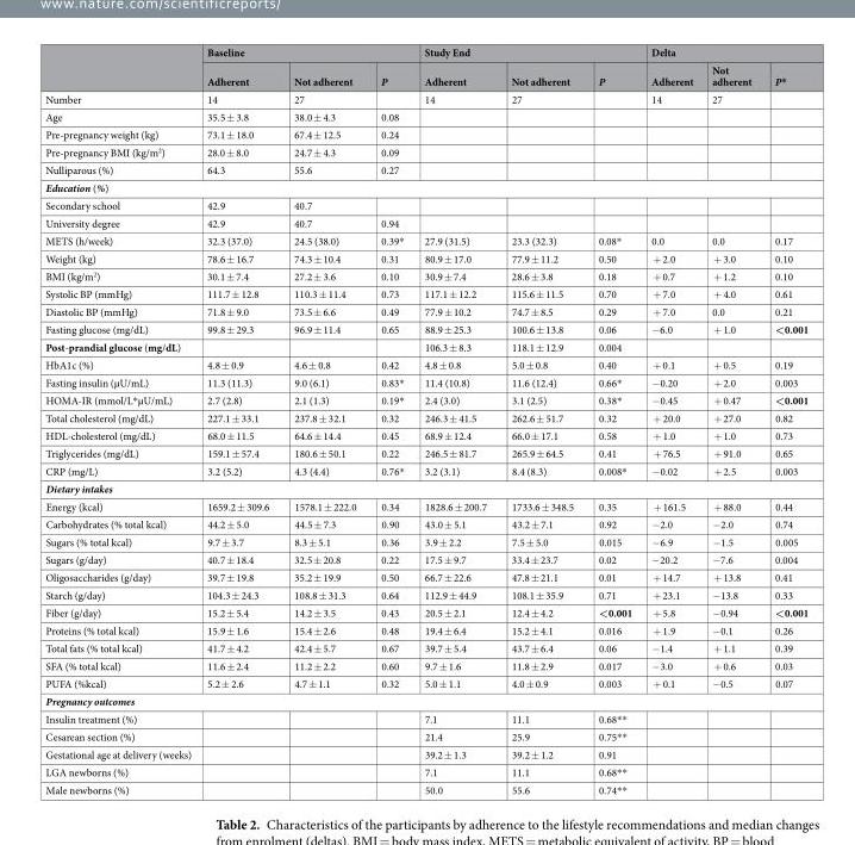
<table><thead><tr><td rowspan="2"></td><td colspan="3">Baseline</td><td colspan="3">Study End</td><td colspan="3">Delta</td></tr><tr><td>Adherent</td><td>Not adherent</td><td>P</td><td>Adherent</td><td>Not adherent</td><td>P</td><td>Adherent</td><td>Not adherent</td><td>P*</td></tr></thead><tbody><tr><td>Number</td><td>14</td><td>27</td><td></td><td>14</td><td>27</td><td></td><td>14</td><td>27</td><td></td></tr><tr><td>Age</td><td>35.5 ± 3.8</td><td>38.0 ± 4.3</td><td>0.08</td><td></td><td></td><td></td><td></td><td></td><td></td></tr><tr><td>Pre-pregnancy weight (kg)</td><td>73.1 ± 18.0</td><td>67.4 ± 12.5</td><td>0.24</td><td></td><td></td><td></td><td></td><td></td><td></td></tr><tr><td>Pre-pregnancy BMI (kg/m<sup>2</sup>)</td><td>28.0 ± 8.0</td><td>24.7 ± 4.3</td><td>0.09</td><td></td><td></td><td></td><td></td><td></td><td></td></tr><tr><td>Nulliparous (%)</td><td>64.3</td><td>55.6</td><td>0.27</td><td></td><td></td><td></td><td></td><td></td><td></td></tr><tr><td colspan="10">Education (%)</td></tr><tr><td>Secondary school</td><td>42.9</td><td>40.7</td><td></td><td></td><td></td><td></td><td></td><td></td><td></td></tr><tr><td>University degree</td><td>42.9</td><td>40.7</td><td>0.94</td><td></td><td></td><td></td><td></td><td></td><td></td></tr><tr><td>METS (h/week)</td><td>32.3 (37.0)</td><td>24.5 (38.0)</td><td>0.39*</td><td>27.9 (31.5)</td><td>23.3 (32.3)</td><td>0.08*</td><td>0.0</td><td>0.0</td><td>0.17</td></tr><tr><td>Weight (kg)</td><td>78.6 ± 16.7</td><td>74.3 ± 10.4</td><td>0.31</td><td>80.9 ± 17.0</td><td>77.9 ± 11.2</td><td>0.50</td><td>+ 2.0</td><td>+ 3.0</td><td>0.10</td></tr><tr><td>BMI (kg/m<sup>2</sup>)</td><td>30.1 ± 7.4</td><td>27.2 ± 3.6</td><td>0.10</td><td>30.9 ± 7.4</td><td>28.6 ± 3.8</td><td>0.18</td><td>+ 0.7</td><td>+ 1.2</td><td>0.10</td></tr><tr><td>Systolic BP (mmHg)</td><td>111.7 ± 12.8</td><td>110.3 ± 11.4</td><td>0.73</td><td>117.1 ± 12.2</td><td>115.6 ± 11.5</td><td>0.70</td><td>+ 7.0</td><td>+ 4.0</td><td>0.61</td></tr><tr><td>Diastolic BP (mmHg)</td><td>71.8 ± 9.0</td><td>73.5 ± 6.6</td><td>0.49</td><td>77.9 ± 10.2</td><td>74.7 ± 8.5</td><td>0.29</td><td>+ 7.0</td><td>0.0</td><td>0.21</td></tr><tr><td>Fasting glucose (mg/dL)</td><td>99.8 ± 29.3</td><td>96.9 ± 11.4</td><td>0.65</td><td>88.9 ± 25.3</td><td>100.6 ± 13.8</td><td>0.06</td><td>−6.0</td><td>+ 1.0</td><td>&lt;0.001</td></tr><tr><td>Post-prandial glucose (mg/dL)</td><td></td><td></td><td></td><td>106.3 ± 8.3</td><td>118.1 ± 12.9</td><td>0.004</td><td></td><td></td><td></td></tr><tr><td>HbA1c (%)</td><td>4.8 ± 0.9</td><td>4.6 ± 0.8</td><td>0.42</td><td>4.8 ± 0.8</td><td>5.0 ± 0.8</td><td>0.40</td><td>+ 0.1</td><td>+ 0.5</td><td>0.19</td></tr><tr><td>Fasting insulin (µU/mL)</td><td>11.3 (11.3)</td><td>9.0 (6.1)</td><td>0.83*</td><td>11.4 (10.8)</td><td>11.6 (12.4)</td><td>0.66*</td><td>−0.20</td><td>+ 2.0</td><td>0.003</td></tr><tr><td>HOMA-IR (mmol/L*µU/mL)</td><td>2.7 (2.8)</td><td>2.1 (1.3)</td><td>0.19*</td><td>2.4 (3.0)</td><td>3.1 (2.5)</td><td>0.38*</td><td>−0.45</td><td>+ 0.47</td><td>&lt;0.001</td></tr><tr><td>Total cholesterol (mg/dL)</td><td>227.1 ± 33.1</td><td>237.8 ± 32.1</td><td>0.32</td><td>246.3 ± 41.5</td><td>262.6 ± 51.7</td><td>0.32</td><td>+ 20.0</td><td>+ 27.0</td><td>0.82</td></tr><tr><td>HDL-cholesterol (mg/dL)</td><td>68.0 ± 11.5</td><td>64.6 ± 14.4</td><td>0.45</td><td>68.9 ± 12.4</td><td>66.0 ± 17.1</td><td>0.58</td><td>+ 1.0</td><td>+ 1.0</td><td>0.73</td></tr><tr><td>Triglycerides (mg/dL)</td><td>159.1 ± 57.4</td><td>180.6 ± 50.1</td><td>0.22</td><td>246.5 ± 81.7</td><td>265.9 ± 64.5</td><td>0.41</td><td>+ 76.5</td><td>+ 91.0</td><td>0.65</td></tr><tr><td>CRP (mg/L)</td><td>3.2 (5.2)</td><td>4.3 (4.4)</td><td>0.76*</td><td>3.2 (3.1)</td><td>8.4 (8.3)</td><td>0.008*</td><td>−0.02</td><td>+ 2.5</td><td>0.003</td></tr><tr><td colspan="10">Dietary intakes</td></tr><tr><td>Energy (kcal)</td><td>1659.2 ± 309.6</td><td>1578.1 ± 222.0</td><td>0.34</td><td>1828.6 ± 200.7</td><td>1733.6 ± 348.5</td><td>0.35</td><td>+ 161.5</td><td>+ 88.0</td><td>0.44</td></tr><tr><td>Carbohydrates (% total kcal)</td><td>44.2 ± 5.0</td><td>44.5 ± 7.3</td><td>0.90</td><td>43.0 ± 5.1</td><td>43.2 ± 7.1</td><td>0.92</td><td>−2.0</td><td>−2.0</td><td>0.74</td></tr><tr><td>Sugars (% total kcal)</td><td>9.7 ± 3.7</td><td>8.3 ± 5.1</td><td>0.36</td><td>3.9 ± 2.2</td><td>7.5 ± 5.0</td><td>0.015</td><td>−6.9</td><td>−1.5</td><td>0.005</td></tr><tr><td>Sugars (g/day)</td><td>40.7 ± 18.4</td><td>32.5 ± 20.8</td><td>0.22</td><td>17.5 ± 9.7</td><td>33.4 ± 23.7</td><td>0.02</td><td>−20.2</td><td>−7.6</td><td>0.004</td></tr><tr><td>Oligosaccharides (g/day)</td><td>39.7 ± 19.8</td><td>35.2 ± 19.9</td><td>0.50</td><td>66.7 ± 22.6</td><td>47.8 ± 21.1</td><td>0.01</td><td>+ 14.7</td><td>+ 13.8</td><td>0.41</td></tr><tr><td>Starch (g/day)</td><td>104.3 ± 24.3</td><td>108.8 ± 31.3</td><td>0.64</td><td>112.9 ± 44.9</td><td>108.1 ± 35.9</td><td>0.71</td><td>+ 23.1</td><td>−13.8</td><td>0.33</td></tr><tr><td>Fiber (g/day)</td><td>15.2 ± 5.4</td><td>14.2 ± 3.5</td><td>0.43</td><td>20.5 ± 2.1</td><td>12.4 ± 4.2</td><td>&lt;0.001</td><td>+ 5.8</td><td>−0.94</td><td>&lt;0.001</td></tr><tr><td>Proteins (% total kcal)</td><td>15.9 ± 1.6</td><td>15.4 ± 2.6</td><td>0.48</td><td>19.4 ± 6.4</td><td>15.2 ± 4.1</td><td>0.016</td><td>+ 1.9</td><td>−0.1</td><td>0.26</td></tr><tr><td>Total fats (% total kcal)</td><td>41.7 ± 4.2</td><td>42.4 ± 5.7</td><td>0.67</td><td>39.7 ± 5.4</td><td>43.7 ± 6.4</td><td>0.06</td><td>−1.4</td><td>+ 1.1</td><td>0.39</td></tr><tr><td>SFA (% total kcal)</td><td>11.6 ± 2.4</td><td>11.2 ± 2.2</td><td>0.60</td><td>9.7 ± 1.6</td><td>11.8 ± 2.9</td><td>0.017</td><td>−3.0</td><td>+ 0.6</td><td>0.03</td></tr><tr><td>PUFA (%kcal)</td><td>5.2 ± 2.6</td><td>4.7 ± 1.1</td><td>0.32</td><td>5.0 ± 1.1</td><td>4.0 ± 0.9</td><td>0.003</td><td>+ 0.1</td><td>−0.5</td><td>0.07</td></tr><tr><td colspan="10">Pregnancy outcomes</td></tr><tr><td>Insulin treatment (%)</td><td></td><td></td><td></td><td>7.1</td><td>11.1</td><td>0.68**</td><td></td><td></td><td></td></tr><tr><td>Cesarean section (%)</td><td></td><td></td><td></td><td>21.4</td><td>25.9</td><td>0.75**</td><td></td><td></td><td></td></tr><tr><td>Gestational age at delivery (weeks)</td><td></td><td></td><td></td><td>39.2 ± 1.3</td><td>39.2 ± 1.2</td><td>0.91</td><td></td><td></td><td></td></tr><tr><td>LGA newborns (%)</td><td></td><td></td><td></td><td>7.1</td><td>11.1</td><td>0.68**</td><td></td><td></td><td></td></tr><tr><td>Male newborns (%)</td><td></td><td></td><td></td><td>50.0</td><td>55.6</td><td>0.74**</td><td></td><td></td><td></td></tr></tbody></table>